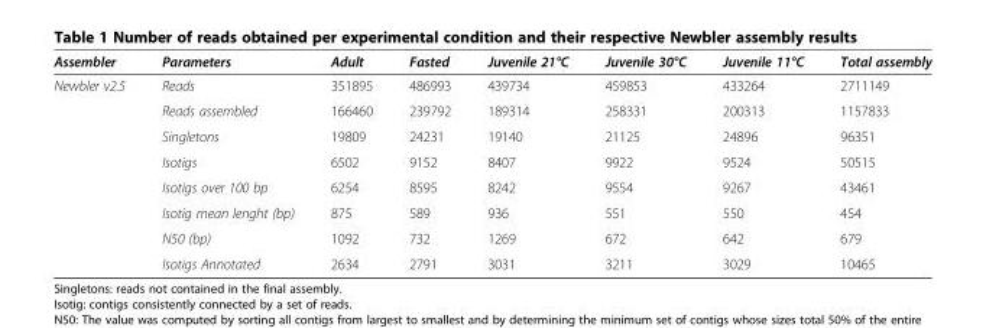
<table><thead><tr><td>Assembler</td><td>Parameters</td><td>Adult</td><td>Fasted</td><td>Juvenile 21°C</td><td>Juvenile 30°C</td><td>Juvenile 11°C</td><td>Total assembly</td></tr></thead><tbody><tr><td rowspan="8">Newbler v2.5</td><td>Reads</td><td>351895</td><td>486993</td><td>439734</td><td>459853</td><td>433264</td><td>2711149</td></tr><tr><td>Reads assembled</td><td>166460</td><td>239792</td><td>189314</td><td>258331</td><td>200313</td><td>1157833</td></tr><tr><td>Singletons</td><td>19809</td><td>24231</td><td>19140</td><td>21125</td><td>24896</td><td>96351</td></tr><tr><td>Isotigs</td><td>6502</td><td>9152</td><td>8407</td><td>9922</td><td>9524</td><td>50515</td></tr><tr><td>Isotigs over 100 bp</td><td>6254</td><td>8595</td><td>8242</td><td>9554</td><td>9267</td><td>43461</td></tr><tr><td>Isotig mean lenght (bp)</td><td>875</td><td>589</td><td>936</td><td>551</td><td>550</td><td>454</td></tr><tr><td>N50 (bp)</td><td>1092</td><td>732</td><td>1269</td><td>672</td><td>642</td><td>679</td></tr><tr><td>Isotigs Annotated</td><td>2634</td><td>2791</td><td>3031</td><td>3211</td><td>3029</td><td>10465</td></tr></tbody></table>